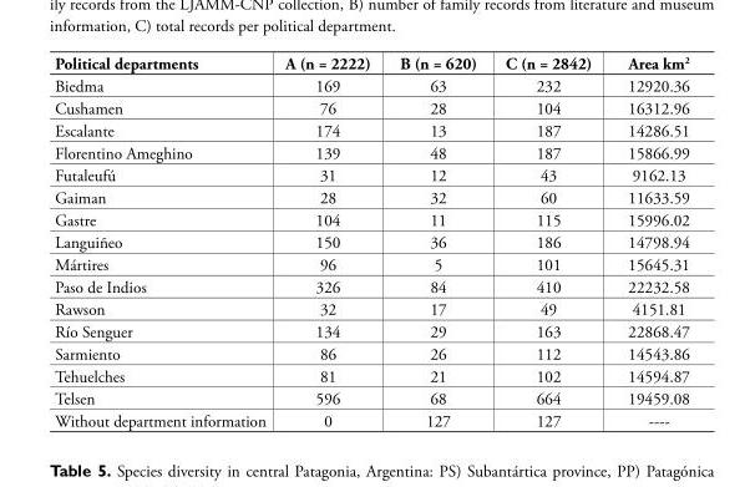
<table><thead><tr><td>Political departments</td><td>A (n = 2222)</td><td>B (n = 620)</td><td>C (n = 2842)</td><td>Area km<sup>2</sup></td></tr></thead><tbody><tr><td>Biedma</td><td>169</td><td>63</td><td>232</td><td>12920.36</td></tr><tr><td>Cushamen</td><td>76</td><td>28</td><td>104</td><td>16312.96</td></tr><tr><td>Escalante</td><td>174</td><td>13</td><td>187</td><td>14286.51</td></tr><tr><td>Florentino Ameghino</td><td>139</td><td>48</td><td>187</td><td>15866.99</td></tr><tr><td>Futaleufú</td><td>31</td><td>12</td><td>43</td><td>9162.13</td></tr><tr><td>Gaiman</td><td>28</td><td>32</td><td>60</td><td>11633.59</td></tr><tr><td>Gastre</td><td>104</td><td>11</td><td>115</td><td>15996.02</td></tr><tr><td>Languiñeo</td><td>150</td><td>36</td><td>186</td><td>14798.94</td></tr><tr><td>Mártires</td><td>96</td><td>5</td><td>101</td><td>15645.31</td></tr><tr><td>Paso de Indios</td><td>326</td><td>84</td><td>410</td><td>22232.58</td></tr><tr><td>Rawson</td><td>32</td><td>17</td><td>49</td><td>4151.81</td></tr><tr><td>Río Senguer</td><td>134</td><td>29</td><td>163</td><td>22868.47</td></tr><tr><td>Sarmiento</td><td>86</td><td>26</td><td>112</td><td>14543.86</td></tr><tr><td>Tehuelches</td><td>81</td><td>21</td><td>102</td><td>14594.87</td></tr><tr><td>Telsen</td><td>596</td><td>68</td><td>664</td><td>19459.08</td></tr><tr><td>Without department information</td><td>0</td><td>127</td><td>127</td><td>----</td></tr></tbody></table>